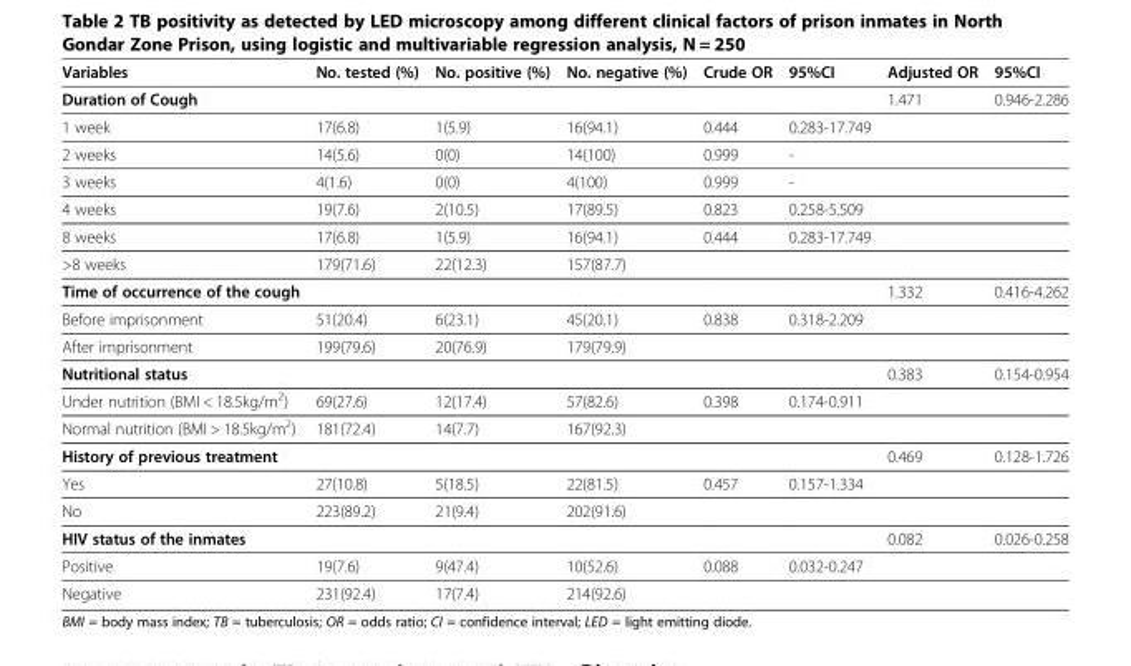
<table><thead><tr><td>Variables</td><td>No. tested (%)</td><td>No. positive (%)</td><td>No. negative (%)</td><td>Crude OR</td><td>95%CI</td><td>Adjusted OR</td><td>95%CI</td></tr></thead><tbody><tr><td>Duration of Cough</td><td></td><td></td><td></td><td></td><td></td><td>1.471</td><td>0.946-2.286</td></tr><tr><td>1 week</td><td>17(6.8)</td><td>1(5.9)</td><td>16(94.1)</td><td>0.444</td><td>0.283-17.749</td><td></td><td></td></tr><tr><td>2 weeks</td><td>14(5.6)</td><td>0(0)</td><td>14(100)</td><td>0.999</td><td>-</td><td></td><td></td></tr><tr><td>3 weeks</td><td>4(1.6)</td><td>0(0)</td><td>4(100)</td><td>0.999</td><td>-</td><td></td><td></td></tr><tr><td>4 weeks</td><td>19(7.6)</td><td>2(10.5)</td><td>17(89.5)</td><td>0.823</td><td>0.258-5.509</td><td></td><td></td></tr><tr><td>8 weeks</td><td>17(6.8)</td><td>1(5.9)</td><td>16(94.1)</td><td>0.444</td><td>0.283-17.749</td><td></td><td></td></tr><tr><td>&gt;8 weeks</td><td>179(71.6)</td><td>22(12.3)</td><td>157(87.7)</td><td></td><td></td><td></td><td></td></tr><tr><td>Time of occurrence of the cough</td><td></td><td></td><td></td><td></td><td></td><td>1.332</td><td>0.416-4.262</td></tr><tr><td>Before imprisonment</td><td>51(20.4)</td><td>6(23.1)</td><td>45(20.1)</td><td>0.838</td><td>0.318-2.209</td><td></td><td></td></tr><tr><td>After imprisonment</td><td>199(79.6)</td><td>20(76.9)</td><td>179(79.9)</td><td></td><td></td><td></td><td></td></tr><tr><td>Nutritional status</td><td></td><td></td><td></td><td></td><td></td><td>0.383</td><td>0.154-0.954</td></tr><tr><td>Under nutrition (BMI &lt; 18.5kg/m<sup>2</sup>)</td><td>69(27.6)</td><td>12(17.4)</td><td>57(82.6)</td><td>0.398</td><td>0.174-0.911</td><td></td><td></td></tr><tr><td>Normal nutrition (BMI &gt; 18.5kg/m<sup>2</sup>)</td><td>181(72.4)</td><td>14(7.7)</td><td>167(92.3)</td><td></td><td></td><td></td><td></td></tr><tr><td>History of previous treatment</td><td></td><td></td><td></td><td></td><td></td><td>0.469</td><td>0.128-1.726</td></tr><tr><td>Yes</td><td>27(10.8)</td><td>5(18.5)</td><td>22(81.5)</td><td>0.457</td><td>0.157-1.334</td><td></td><td></td></tr><tr><td>No</td><td>223(89.2)</td><td>21(9.4)</td><td>202(91.6)</td><td></td><td></td><td></td><td></td></tr><tr><td>HIV status of the inmates</td><td></td><td></td><td></td><td></td><td></td><td>0.082</td><td>0.026-0.258</td></tr><tr><td>Positive</td><td>19(7.6)</td><td>9(47.4)</td><td>10(52.6)</td><td>0.088</td><td>0.032-0.247</td><td></td><td></td></tr><tr><td>Negative</td><td>231(92.4)</td><td>17(7.4)</td><td>214(92.6)</td><td></td><td></td><td></td><td></td></tr></tbody></table>